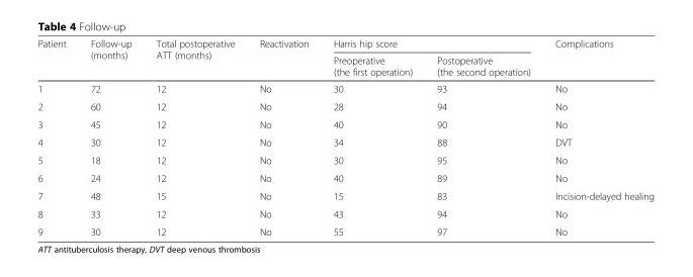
<table><thead><tr><td rowspan="2">Patient</td><td rowspan="2">Follow-up (months)</td><td rowspan="2">Total postoperative ATT (months)</td><td rowspan="2">Reactivation</td><td colspan="2">Harris hip score</td><td rowspan="2">Complications</td></tr><tr><td>Preoperative (the first operation)</td><td>Postoperative (the second operation)</td></tr></thead><tbody><tr><td>1</td><td>72</td><td>12</td><td>No</td><td>30</td><td>93</td><td>No</td></tr><tr><td>2</td><td>60</td><td>12</td><td>No</td><td>28</td><td>94</td><td>No</td></tr><tr><td>3</td><td>45</td><td>12</td><td>No</td><td>40</td><td>90</td><td>No</td></tr><tr><td>4</td><td>30</td><td>12</td><td>No</td><td>34</td><td>88</td><td>DVT</td></tr><tr><td>5</td><td>18</td><td>12</td><td>No</td><td>30</td><td>95</td><td>No</td></tr><tr><td>6</td><td>24</td><td>12</td><td>No</td><td>40</td><td>89</td><td>No</td></tr><tr><td>7</td><td>48</td><td>15</td><td>No</td><td>15</td><td>83</td><td>Incision-delayed healing</td></tr><tr><td>8</td><td>33</td><td>12</td><td>No</td><td>43</td><td>94</td><td>No</td></tr><tr><td>9</td><td>30</td><td>12</td><td>No</td><td>55</td><td>97</td><td>No</td></tr></tbody></table>